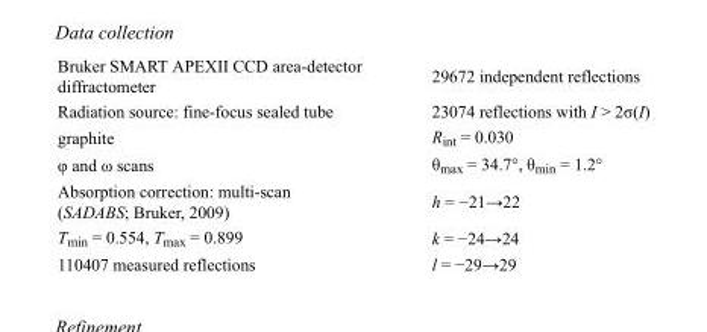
<table><tbody><tr><td>Bruker SMART APEXII CCD area-detector diffractometer</td><td>29672 independent reflections</td></tr><tr><td>Radiation source: fine-focus sealed tube</td><td>23074 reflections with I &gt; 2σ(I)</td></tr><tr><td>graphite</td><td>R<sub>int</sub> = 0.030</td></tr><tr><td>φ and ω scans</td><td>θ<sub>max</sub> = 34.7°, θ<sub>min</sub> = 1.2°</td></tr><tr><td>Absorption correction: multi-scan (SADABS; Bruker, 2009)</td><td>h = −21→22</td></tr><tr><td>T<sub>min</sub> = 0.554, T<sub>max</sub> = 0.899</td><td>k = −24→24</td></tr><tr><td>110407 measured reflections</td><td>l = −29→29</td></tr></tbody></table>